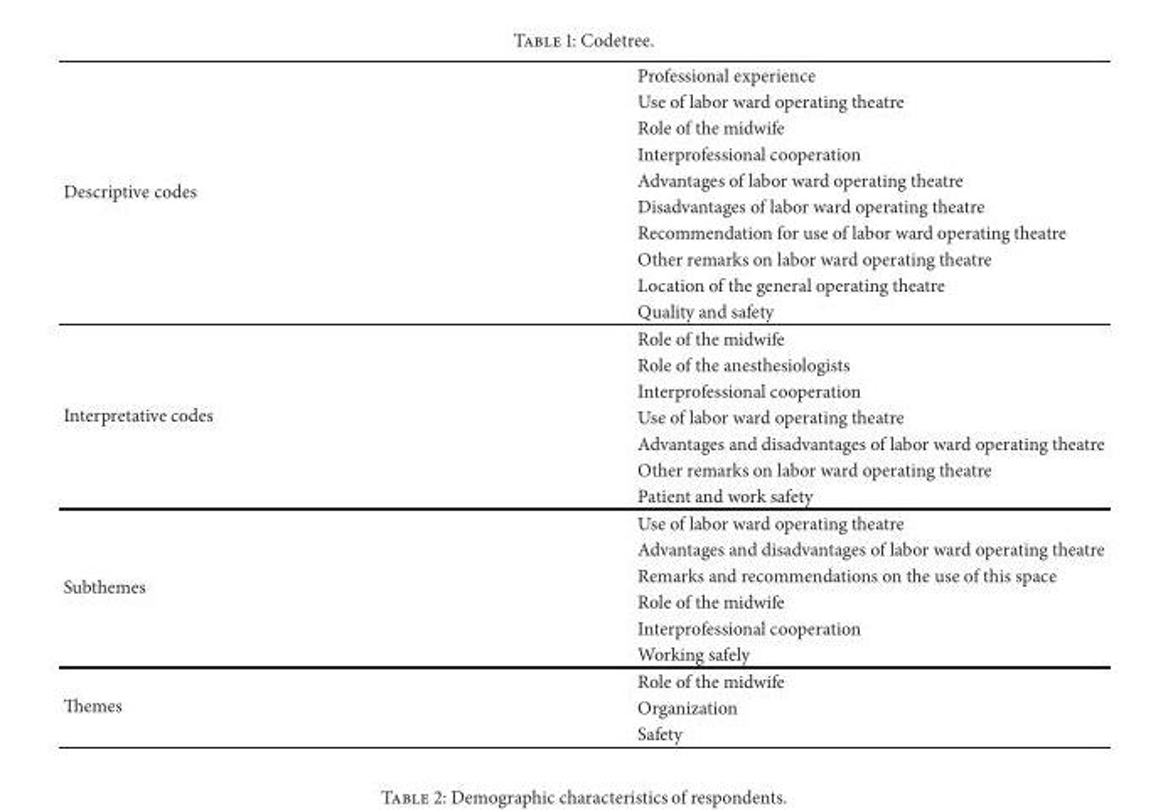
<table><tbody><tr><td rowspan="10">Descriptive codes</td><td>Professional experience</td></tr><tr><td>Use of labor ward operating theatre</td></tr><tr><td>Role of the midwife</td></tr><tr><td>Interprofessional cooperation</td></tr><tr><td>Advantages of labor ward operating theatre</td></tr><tr><td>Disadvantages of labor ward operating theatre</td></tr><tr><td>Recommendation for use of labor ward operating theatre</td></tr><tr><td>Other remarks on labor ward operating theatre</td></tr><tr><td>Location of the general operating theatre</td></tr><tr><td>Quality and safety</td></tr><tr><td rowspan="7">Interpretative codes</td><td>Role of the midwife</td></tr><tr><td>Role of the anesthesiologists</td></tr><tr><td>Interprofessional cooperation</td></tr><tr><td>Use of labor ward operating theatre</td></tr><tr><td>Advantages and disadvantages of labor ward operating theatre</td></tr><tr><td>Other remarks on labor ward operating theatre</td></tr><tr><td>Patient and work safety</td></tr><tr><td rowspan="6">Subthemes</td><td>Use of labor ward operating theatre</td></tr><tr><td>Advantages and disadvantages of labor ward operating theatre</td></tr><tr><td>Remarks and recommendations on the use of this space</td></tr><tr><td>Role of the midwife</td></tr><tr><td>Interprofessional cooperation</td></tr><tr><td>Working safely</td></tr><tr><td rowspan="3">Themes</td><td>Role of the midwife</td></tr><tr><td>Organization</td></tr><tr><td>Safety</td></tr></tbody></table>